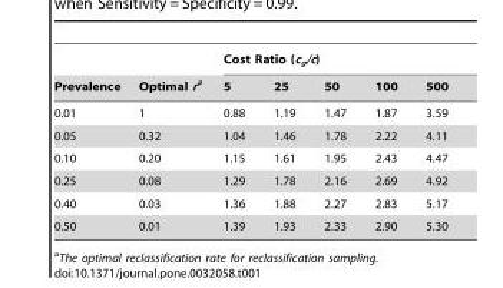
<table><thead><tr><td rowspan="2">Prevalence</td><td rowspan="2">Optimal ra</td><td colspan="5">Cost Ratio (c<sub>g</sub>/c)</td></tr><tr><td>5</td><td>25</td><td>50</td><td>100</td><td>500</td></tr></thead><tbody><tr><td>0.01</td><td>1</td><td>0.88</td><td>1.19</td><td>1.47</td><td>1.87</td><td>3.59</td></tr><tr><td>0.05</td><td>0.32</td><td>1.04</td><td>1.46</td><td>1.78</td><td>2.22</td><td>4.11</td></tr><tr><td>0.10</td><td>0.20</td><td>1.15</td><td>1.61</td><td>1.95</td><td>2.43</td><td>4.47</td></tr><tr><td>0.25</td><td>0.08</td><td>1.29</td><td>1.78</td><td>2.16</td><td>2.69</td><td>4.92</td></tr><tr><td>0.40</td><td>0.03</td><td>1.36</td><td>1.88</td><td>2.27</td><td>2.83</td><td>5.17</td></tr><tr><td>0.50</td><td>0.01</td><td>1.39</td><td>1.93</td><td>2.33</td><td>2.90</td><td>5.30</td></tr></tbody></table>